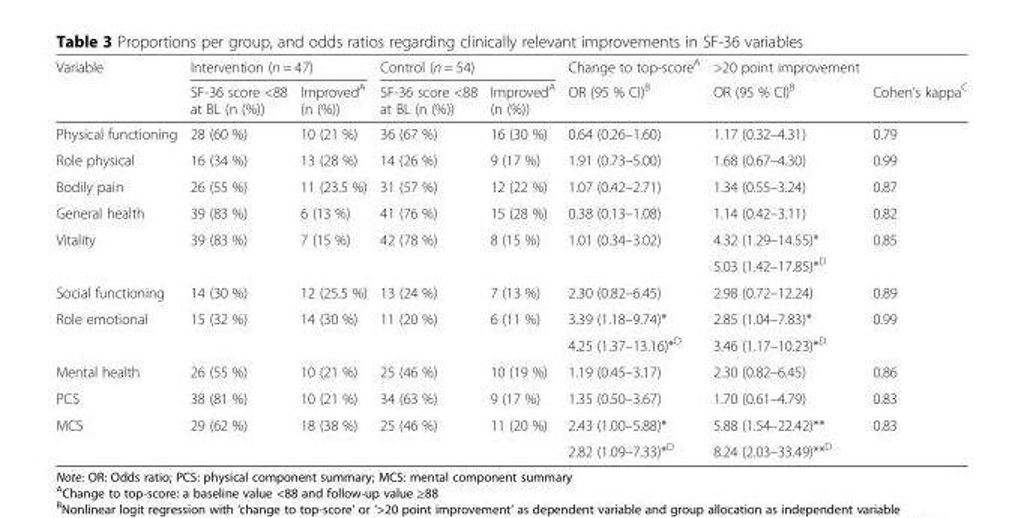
<table><thead><tr><td rowspan="2">Variable</td><td colspan="2">Intervention (n = 47)</td><td colspan="2">Control (n = 54)</td><td rowspan="2">Change to top-score<sup>A</sup> OR (95 % CI)<sup>B</sup></td><td rowspan="2">&gt;20 point improvement OR (95 % CI)<sup>B</sup></td><td rowspan="2">Cohen’s kappa<sup>C</sup></td></tr><tr><td>SF-36 score &lt;88 at BL (n (%))</td><td>Improved<sup>A</sup> (n (%))</td><td>SF-36 score &lt;88 at BL (n (%))</td><td>Improved<sup>A</sup> (n (%))</td></tr></thead><tbody><tr><td>Physical functioning</td><td>28 (60 %)</td><td>10 (21 %)</td><td>36 (67 %)</td><td>16 (30 %)</td><td>0.64 (0.26–1.60)</td><td>1.17 (0.32–4.31)</td><td>0.79</td></tr><tr><td>Role physical</td><td>16 (34 %)</td><td>13 (28 %)</td><td>14 (26 %)</td><td>9 (17 %)</td><td>1.91 (0.73–5.00)</td><td>1.68 (0.67–4.30)</td><td>0.99</td></tr><tr><td>Bodily pain</td><td>26 (55 %)</td><td>11 (23.5 %)</td><td>31 (57 %)</td><td>12 (22 %)</td><td>1.07 (0.42–2.71)</td><td>1.34 (0.55–3.24)</td><td>0.87</td></tr><tr><td>General health</td><td>39 (83 %)</td><td>6 (13 %)</td><td>41 (76 %)</td><td>15 (28 %)</td><td>0.38 (0.13–1.08)</td><td>1.14 (0.42–3.11)</td><td>0.82</td></tr><tr><td rowspan="2">Vitality</td><td rowspan="2">39 (83 %)</td><td rowspan="2">7 (15 %)</td><td rowspan="2">42 (78 %)</td><td rowspan="2">8 (15 %)</td><td rowspan="2">1.01 (0.34–3.02)</td><td>4.32 (1.29–14.55)*</td><td rowspan="2">0.85</td></tr><tr><td>5.03 (1.42–17.85)*<sup>D</sup></td></tr><tr><td>Social functioning</td><td>14 (30 %)</td><td>12 (25.5 %)</td><td>13 (24 %)</td><td>7 (13 %)</td><td>2.30 (0.82–6.45)</td><td>2.98 (0.72–12.24)</td><td>0.89</td></tr><tr><td rowspan="2">Role emotional</td><td rowspan="2">15 (32 %)</td><td rowspan="2">14 (30 %)</td><td rowspan="2">11 (20 %)</td><td rowspan="2">6 (11 %)</td><td>3.39 (1.18–9.74)*</td><td>2.85 (1.04–7.83)*</td><td rowspan="2">0.99</td></tr><tr><td>4.25 (1.37–13.16)*<sup>D</sup></td><td>3.46 (1.17–10.23)*<sup>D</sup></td></tr><tr><td>Mental health</td><td>26 (55 %)</td><td>10 (21 %)</td><td>25 (46 %)</td><td>10 (19 %)</td><td>1.19 (0.45–3.17)</td><td>2.30 (0.82–6.45)</td><td>0.86</td></tr><tr><td>PCS</td><td>38 (81 %)</td><td>10 (21 %)</td><td>34 (63 %)</td><td>9 (17 %)</td><td>1.35 (0.50–3.67)</td><td>1.70 (0.61–4.79)</td><td>0.83</td></tr><tr><td rowspan="2">MCS</td><td rowspan="2">29 (62 %)</td><td rowspan="2">18 (38 %)</td><td rowspan="2">25 (46 %)</td><td rowspan="2">11 (20 %)</td><td>2.43 (1.00–5.88)*</td><td>5.88 (1.54–22.42)**</td><td rowspan="2">0.83</td></tr><tr><td>2.82 (1.09–7.33)*<sup>D</sup></td><td>8.24 (2.03–33.49)**<sup>D</sup></td></tr></tbody></table>